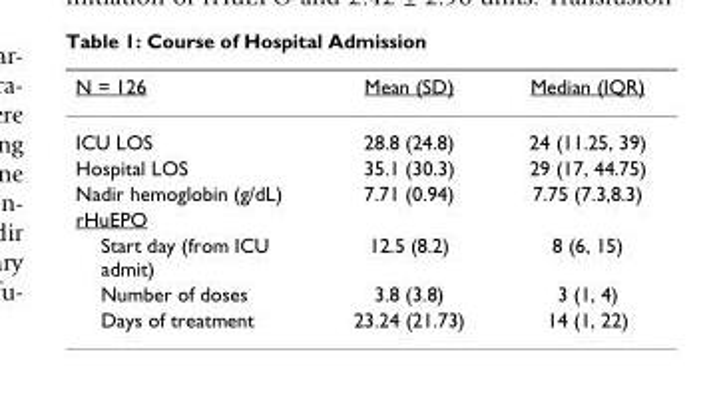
<table><thead><tr><td>N = 126</td><td>Mean (SD)</td><td>Median (IQR)</td></tr></thead><tbody><tr><td>ICU LOS</td><td>28.8 (24.8)</td><td>24 (11.25, 39)</td></tr><tr><td>Hospital LOS</td><td>35.1 (30.3)</td><td>29 (17, 44.75)</td></tr><tr><td>Nadir hemoglobin (g/dL)</td><td>7.71 (0.94)</td><td>7.75 (7.3,8.3)</td></tr><tr><td colspan="3">rHuEPO</td></tr><tr><td>Start day (from ICU admit)</td><td>12.5 (8.2)</td><td>8 (6, 15)</td></tr><tr><td>Number of doses</td><td>3.8 (3.8)</td><td>3 (1, 4)</td></tr><tr><td>Days of treatment</td><td>23.24 (21.73)</td><td>14 (1, 22)</td></tr></tbody></table>